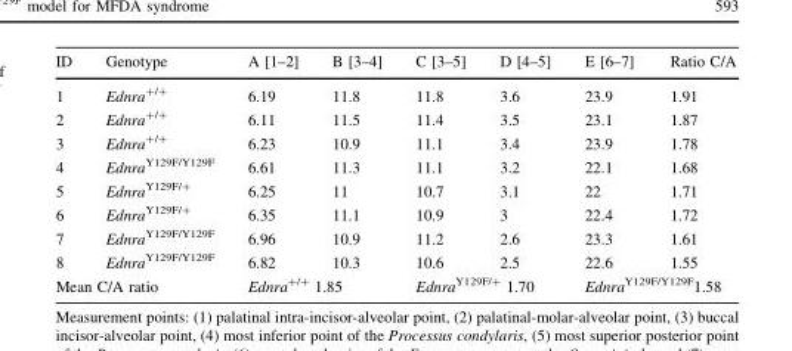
<table><thead><tr><td>ID</td><td>Genotype</td><td>A [1–2]</td><td>B [3–4]</td><td>C [3–5]</td><td>D [4–5]</td><td>E [6–7]</td><td>Ratio C/A</td></tr></thead><tbody><tr><td>1</td><td>Ednra<sup>+/+</sup></td><td>6.19</td><td>11.8</td><td>11.8</td><td>3.6</td><td>23.9</td><td>1.91</td></tr><tr><td>2</td><td>Ednra<sup>+/+</sup></td><td>6.11</td><td>11.5</td><td>11.4</td><td>3.5</td><td>23.1</td><td>1.87</td></tr><tr><td>3</td><td>Ednra<sup>+/+</sup></td><td>6.23</td><td>10.9</td><td>11.1</td><td>3.4</td><td>23.9</td><td>1.78</td></tr><tr><td>4</td><td>Ednra<sup>Y129F/Y129F</sup></td><td>6.61</td><td>11.3</td><td>11.1</td><td>3.2</td><td>22.1</td><td>1.68</td></tr><tr><td>5</td><td>Ednra<sup>Y129F/+</sup></td><td>6.25</td><td>11</td><td>10.7</td><td>3.1</td><td>22</td><td>1.71</td></tr><tr><td>6</td><td>Ednra<sup>Y129F/+</sup></td><td>6.35</td><td>11.1</td><td>10.9</td><td>3</td><td>22.4</td><td>1.72</td></tr><tr><td>7</td><td>Ednra<sup>Y129F/Y129F</sup></td><td>6.96</td><td>10.9</td><td>11.2</td><td>2.6</td><td>23.3</td><td>1.61</td></tr><tr><td>8</td><td>Ednra<sup>Y129F/Y129F</sup></td><td>6.82</td><td>10.3</td><td>10.6</td><td>2.5</td><td>22.6</td><td>1.55</td></tr><tr><td colspan="2">Mean C/A ratio</td><td colspan="2">Ednra<sup>+/+</sup> 1.85</td><td colspan="2">Ednra<sup>Y129F/+</sup> 1.70</td><td colspan="2">Ednra<sup>Y129F/Y129F</sup>1.58</td></tr></tbody></table>